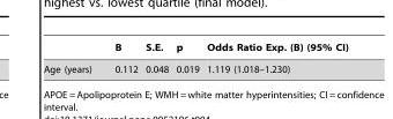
<table><thead><tr><td></td><td>B</td><td>S.E.</td><td>p</td><td>Odds Ratio Exp. (B) (95% CI)</td></tr></thead><tbody><tr><td>Age (years)</td><td>0.112</td><td>0.048</td><td>0.019</td><td>1.119 (1.018–1.230)</td></tr></tbody></table>